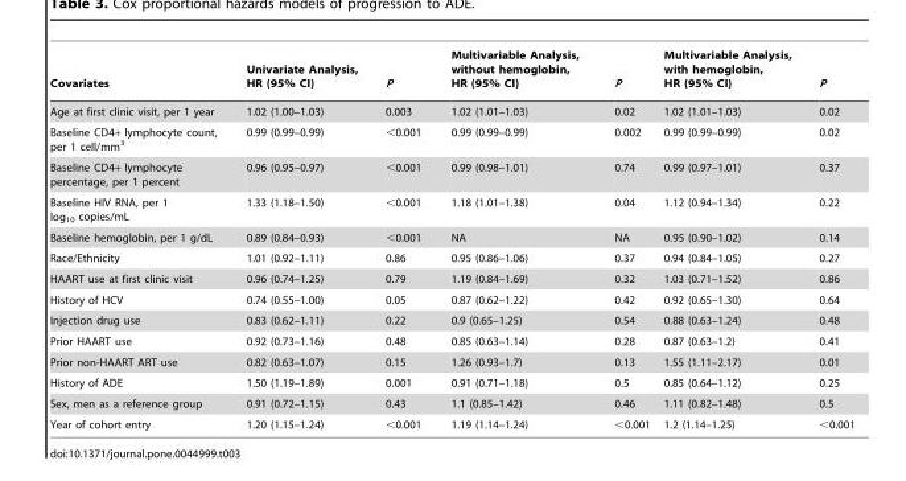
<table><thead><tr><td>Covariates</td><td>Univariate Analysis, HR (95% CI)</td><td>P</td><td>Multivariable Analysis, without hemoglobin, HR (95% CI)</td><td>P</td><td>Multivariable Analysis, with hemoglobin, HR (95% CI)</td><td>P</td></tr></thead><tbody><tr><td>Age at first clinic visit, per 1 year</td><td>1.02 (1.00–1.03)</td><td>0.003</td><td>1.02 (1.01–1.03)</td><td>0.02</td><td>1.02 (1.01–1.03)</td><td>0.02</td></tr><tr><td>Baseline CD4+ lymphocyte count, per 1 cell/mm<sup>3</sup></td><td>0.99 (0.99–0.99)</td><td>&lt;0.001</td><td>0.99 (0.99–0.99)</td><td>0.002</td><td>0.99 (0.99–0.99)</td><td>0.02</td></tr><tr><td>Baseline CD4+ lymphocyte percentage, per 1 percent</td><td>0.96 (0.95–0.97)</td><td>&lt;0.001</td><td>0.99 (0.98–1.01)</td><td>0.74</td><td>0.99 (0.97–1.01)</td><td>0.37</td></tr><tr><td>Baseline HIV RNA, per 1 log<sub>10</sub> copies/mL</td><td>1.33 (1.18–1.50)</td><td>&lt;0.001</td><td>1.18 (1.01–1.38)</td><td>0.04</td><td>1.12 (0.94–1.34)</td><td>0.22</td></tr><tr><td>Baseline hemoglobin, per 1 g/dL</td><td>0.89 (0.84–0.93)</td><td>&lt;0.001</td><td>NA</td><td>NA</td><td>0.95 (0.90–1.02)</td><td>0.14</td></tr><tr><td>Race/Ethnicity</td><td>1.01 (0.92–1.11)</td><td>0.86</td><td>0.95 (0.86–1.06)</td><td>0.37</td><td>0.94 (0.84–1.05)</td><td>0.27</td></tr><tr><td>HAART use at first clinic visit</td><td>0.96 (0.74–1.25)</td><td>0.79</td><td>1.19 (0.84–1.69)</td><td>0.32</td><td>1.03 (0.71–1.52)</td><td>0.86</td></tr><tr><td>History of HCV</td><td>0.74 (0.55–1.00)</td><td>0.05</td><td>0.87 (0.62–1.22)</td><td>0.42</td><td>0.92 (0.65–1.30)</td><td>0.64</td></tr><tr><td>Injection drug use</td><td>0.83 (0.62–1.11)</td><td>0.22</td><td>0.9 (0.65–1.25)</td><td>0.54</td><td>0.88 (0.63–1.24)</td><td>0.48</td></tr><tr><td>Prior HAART use</td><td>0.92 (0.73–1.16)</td><td>0.48</td><td>0.85 (0.63–1.14)</td><td>0.28</td><td>0.87 (0.63–1.2)</td><td>0.41</td></tr><tr><td>Prior non-HAART ART use</td><td>0.82 (0.63–1.07)</td><td>0.15</td><td>1.26 (0.93–1.7)</td><td>0.13</td><td>1.55 (1.11–2.17)</td><td>0.01</td></tr><tr><td>History of ADE</td><td>1.50 (1.19–1.89)</td><td>0.001</td><td>0.91 (0.71–1.18)</td><td>0.5</td><td>0.85 (0.64–1.12)</td><td>0.25</td></tr><tr><td>Sex, men as a reference group</td><td>0.91 (0.72–1.15)</td><td>0.43</td><td>1.1 (0.85–1.42)</td><td>0.46</td><td>1.11 (0.82–1.48)</td><td>0.5</td></tr><tr><td>Year of cohort entry</td><td>1.20 (1.15–1.24)</td><td>&lt;0.001</td><td>1.19 (1.14–1.24)</td><td>&lt;0.001</td><td>1.2 (1.14–1.25)</td><td>&lt;0.001</td></tr></tbody></table>